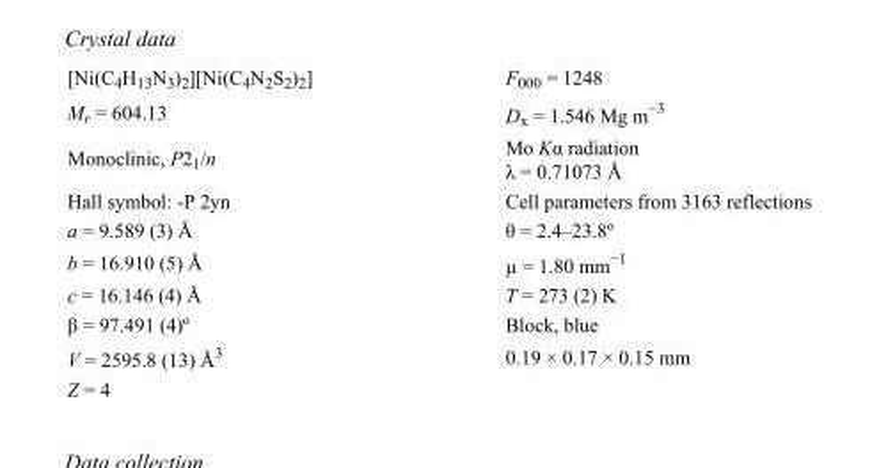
<table><tbody><tr><td>[Ni(C<sub>4</sub>H<sub>13</sub>N<sub>3</sub>)<sub>2</sub>][Ni(C<sub>4</sub>N<sub>2</sub>S<sub>2</sub>)<sub>2</sub>]</td><td>F000 = 1248</td></tr><tr><td>M<sub>r</sub> = 604.13</td><td>D<sub>x</sub> = 1.546 Mg m<sup>−3</sup></td></tr><tr><td>Monoclinic, P2<sub>1</sub>/n</td><td>Mo Kα radiation λ = 0.71073 Å</td></tr><tr><td>Hall symbol: -P 2yn</td><td>Cell parameters from 3163 reflections</td></tr><tr><td>a = 9.589 (3) Å</td><td>θ = 2.4–23.8º</td></tr><tr><td>b = 16.910 (5) Å</td><td>µ = 1.80 mm<sup>−1</sup></td></tr><tr><td>c = 16.146 (4) Å</td><td>T = 273 (2) K</td></tr><tr><td>β = 97.491 (4)º</td><td>Block, blue</td></tr><tr><td>V = 2595.8 (13) Å<sup>3</sup></td><td>0.19 × 0.17 × 0.15 mm</td></tr><tr><td>Z = 4</td><td></td></tr></tbody></table>